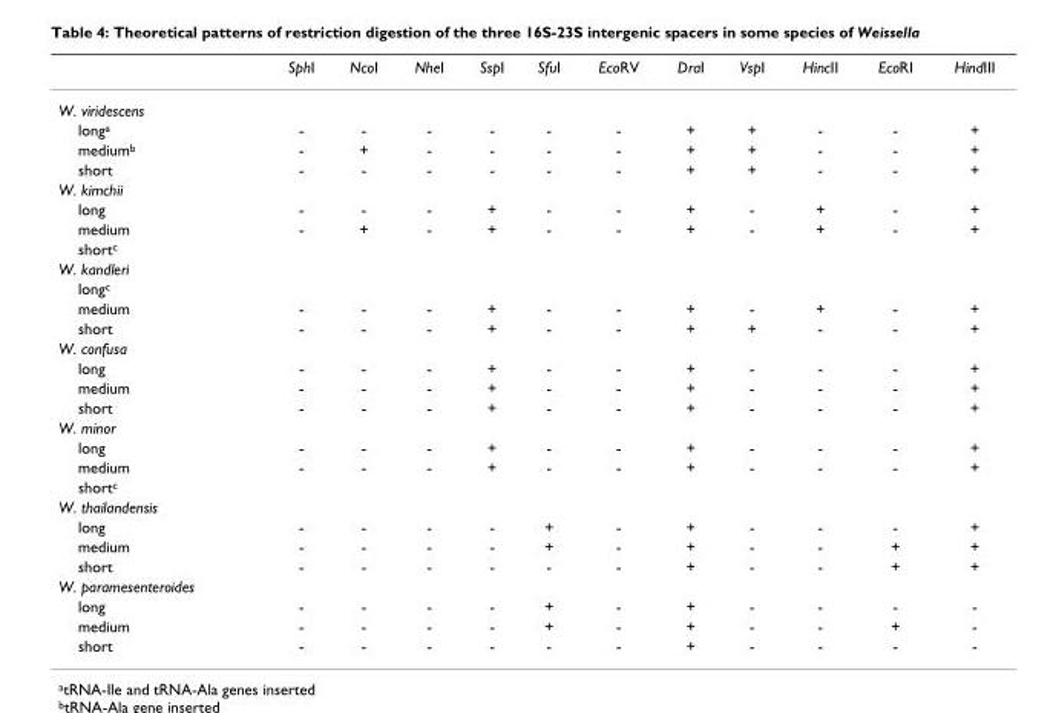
<table><thead><tr><td></td><td>SphI</td><td>NcoI</td><td>NheI</td><td>SspI</td><td>SfuI</td><td>EcoRV</td><td>DraI</td><td>VspI</td><td>HincII</td><td>EcoRI</td><td>HindIII</td></tr></thead><tbody><tr><td colspan="12">W. viridescens</td></tr><tr><td>longa</td><td>-</td><td>-</td><td>-</td><td>-</td><td>-</td><td>-</td><td>+</td><td>+</td><td>-</td><td>-</td><td>+</td></tr><tr><td>mediumb</td><td>-</td><td>+</td><td>-</td><td>-</td><td>-</td><td>-</td><td>+</td><td>+</td><td>-</td><td>-</td><td>+</td></tr><tr><td>short</td><td>-</td><td>-</td><td>-</td><td>-</td><td>-</td><td>-</td><td>+</td><td>+</td><td>-</td><td>-</td><td>+</td></tr><tr><td colspan="12">W. kimchii</td></tr><tr><td>long</td><td>-</td><td>-</td><td>-</td><td>+</td><td>-</td><td>-</td><td>+</td><td>-</td><td>+</td><td>-</td><td>+</td></tr><tr><td>medium</td><td>-</td><td>+</td><td>-</td><td>+</td><td>-</td><td>-</td><td>+</td><td>-</td><td>+</td><td>-</td><td>+</td></tr><tr><td colspan="12">shortc</td></tr><tr><td colspan="12">W. kandleri</td></tr><tr><td colspan="12">longc</td></tr><tr><td>medium</td><td>-</td><td>-</td><td>-</td><td>+</td><td>-</td><td>-</td><td>+</td><td>-</td><td>+</td><td>-</td><td>+</td></tr><tr><td>short</td><td>-</td><td>-</td><td>-</td><td>+</td><td>-</td><td>-</td><td>+</td><td>+</td><td>-</td><td>-</td><td>+</td></tr><tr><td colspan="12">W. confusa</td></tr><tr><td>long</td><td>-</td><td>-</td><td>-</td><td>+</td><td>-</td><td>-</td><td>+</td><td>-</td><td>-</td><td>-</td><td>+</td></tr><tr><td>medium</td><td>-</td><td>-</td><td>-</td><td>+</td><td>-</td><td>-</td><td>+</td><td>-</td><td>-</td><td>-</td><td>+</td></tr><tr><td>short</td><td>-</td><td>-</td><td>-</td><td>+</td><td>-</td><td>-</td><td>+</td><td>-</td><td>-</td><td>-</td><td>+</td></tr><tr><td colspan="12">W. minor</td></tr><tr><td>long</td><td>-</td><td>-</td><td>-</td><td>+</td><td>-</td><td>-</td><td>+</td><td>-</td><td>-</td><td>-</td><td>+</td></tr><tr><td>medium</td><td>-</td><td>-</td><td>-</td><td>+</td><td>-</td><td>-</td><td>+</td><td>-</td><td>-</td><td>-</td><td>+</td></tr><tr><td colspan="12">shortc</td></tr><tr><td colspan="12">W. thailandensis</td></tr><tr><td>long</td><td>-</td><td>-</td><td>-</td><td>-</td><td>+</td><td>-</td><td>+</td><td>-</td><td>-</td><td>-</td><td>+</td></tr><tr><td>medium</td><td>-</td><td>-</td><td>-</td><td>-</td><td>+</td><td>-</td><td>+</td><td>-</td><td>-</td><td>+</td><td>+</td></tr><tr><td>short</td><td>-</td><td>-</td><td>-</td><td>-</td><td>-</td><td>-</td><td>+</td><td>-</td><td>-</td><td>+</td><td>+</td></tr><tr><td colspan="12">W. paramesenteroides</td></tr><tr><td>long</td><td>-</td><td>-</td><td>-</td><td>-</td><td>+</td><td>-</td><td>+</td><td>-</td><td>-</td><td>-</td><td>-</td></tr><tr><td>medium</td><td>-</td><td>-</td><td>-</td><td>-</td><td>+</td><td>-</td><td>+</td><td>-</td><td>-</td><td>+</td><td>-</td></tr><tr><td>short</td><td>-</td><td>-</td><td>-</td><td>-</td><td>-</td><td>-</td><td>+</td><td>-</td><td>-</td><td>-</td><td>-</td></tr></tbody></table>